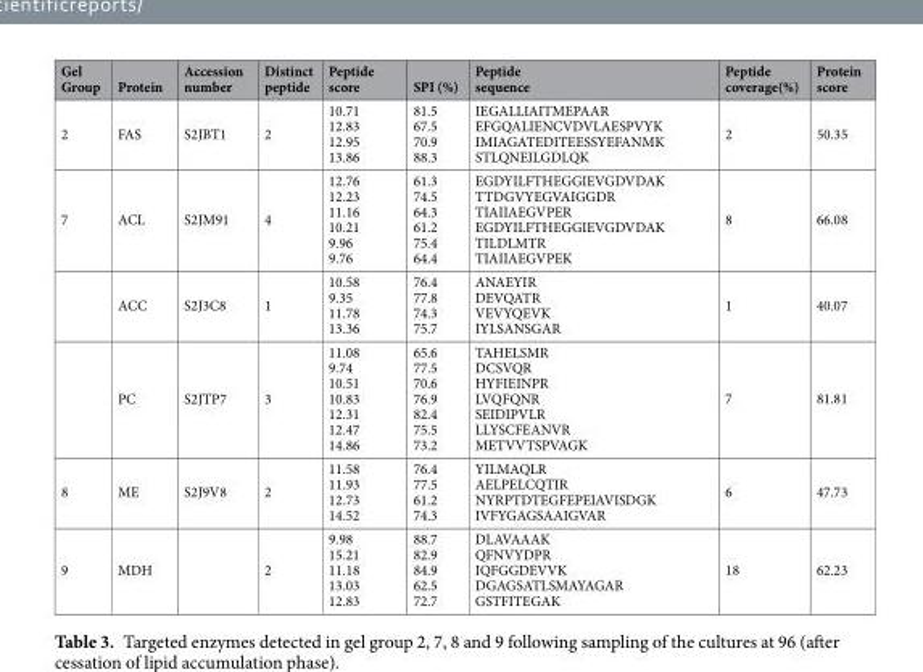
<table><thead><tr><td>Gel Group</td><td>Protein</td><td>Accession number</td><td>Distinct peptide</td><td>Peptide score</td><td>SPI (%)</td><td>Peptide sequence</td><td>Peptide coverage(%)</td><td>Protein score</td></tr></thead><tbody><tr><td>2</td><td>FAS</td><td>S2JBT1</td><td>2</td><td>10.71 12.83 12.95 13.86</td><td>81.5 67.5 70.9 88.3</td><td>IEGALLIAITMEPAAR EFGQALIENCVDVLAESPVYK IMIAGATEDITEESSYEFANMK STLQNEILGDLQK</td><td>2</td><td>50.35</td></tr><tr><td rowspan="3">7</td><td>ACL</td><td>S2JM91</td><td>4</td><td>12.76 12.23 11.16 10.21 9.96 9.76</td><td>61.3 74.5 64.3 61.2 75.4 64.4</td><td>EGDYILFTHEGGIEVGDVDAK TTDGVYEGVAIGGDR TIAIIAEGVPER EGDYILFTHEGGIEVGDVDAK TILDLMTR TIAIIAEGVPEK</td><td>8</td><td>66.08</td></tr><tr><td>ACC</td><td>S2J3C8</td><td>1</td><td>10.58 9.35 11.78 13.36</td><td>76.4 77.8 74.3 75.7</td><td>ANAEYIR DEVQATR VEVYQEVK IYLSANSGAR</td><td>1</td><td>40.07</td></tr><tr><td>PC</td><td>S2JTP7</td><td>3</td><td>11.08 9.74 10.51 10.83 12.31 12.47 14.86</td><td>65.6 77.5 70.6 76.9 82.4 75.5 73.2</td><td>TAHELSMR DCSVQR HYFIEINPR LVQFQNR SEIDIPVLR LLYSCFEANVR METVVTSPVAGK</td><td>7</td><td>81.81</td></tr><tr><td>8</td><td>ME</td><td>S2J9V8</td><td>2</td><td>11.58 11.93 12.73 14.52</td><td>76.4 77.5 61.2 74.3</td><td>YILMAQLR AELPELCQTIR NYRPTDTEGFEPEIAVISDGK IVFYGAGSAAIGVAR</td><td>6</td><td>47.73</td></tr><tr><td>9</td><td>MDH</td><td></td><td>2</td><td>9.98 15.21 11.18 13.03 12.83</td><td>88.7 82.9 84.9 62.5 72.7</td><td>DLAVAAAK QFNVYDPR IQFGGDEVVK DGAGSATLSMAYAGAR GSTFITEGAK</td><td>18</td><td>62.23</td></tr></tbody></table>